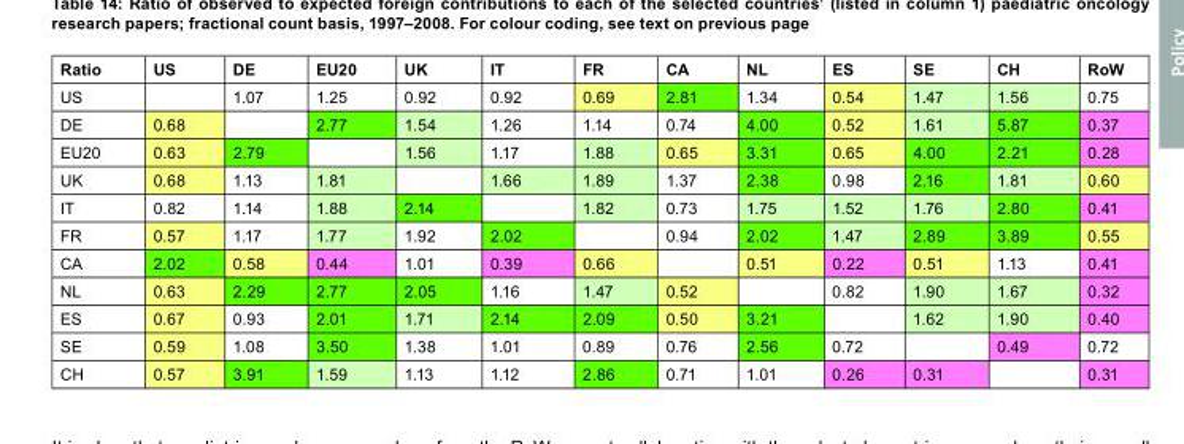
<table><thead><tr><td>Ratio</td><td>US</td><td>DE</td><td>EU20</td><td>UK</td><td>IT</td><td>FR</td><td>CA</td><td>NL</td><td>ES</td><td>SE</td><td>CH</td><td>RoW</td></tr></thead><tbody><tr><td>US</td><td></td><td>1.07</td><td>1.25</td><td>0.92</td><td>0.92</td><td>0.69</td><td>2.81</td><td>1.34</td><td>0.54</td><td>1.47</td><td>1.56</td><td>0.75</td></tr><tr><td>DE</td><td>0.68</td><td></td><td>2.77</td><td>1.54</td><td>1.26</td><td>1.14</td><td>0.74</td><td>4.00</td><td>0.52</td><td>1.61</td><td>5.87</td><td>0.37</td></tr><tr><td>EU20</td><td>0.63</td><td>2.79</td><td></td><td>1.56</td><td>1.17</td><td>1.88</td><td>0.65</td><td>3.31</td><td>0.65</td><td>4.00</td><td>2.21</td><td>0.28</td></tr><tr><td>UK</td><td>0.68</td><td>1.13</td><td>1.81</td><td></td><td>1.66</td><td>1.89</td><td>1.37</td><td>2.38</td><td>0.98</td><td>2.16</td><td>1.81</td><td>0.60</td></tr><tr><td>IT</td><td>0.82</td><td>1.14</td><td>1.88</td><td>2.14</td><td></td><td>1.82</td><td>0.73</td><td>1.75</td><td>1.52</td><td>1.76</td><td>2.80</td><td>0.41</td></tr><tr><td>FR</td><td>0.57</td><td>1.17</td><td>1.77</td><td>1.92</td><td>2.02</td><td></td><td>0.94</td><td>2.02</td><td>1.47</td><td>2.89</td><td>3.89</td><td>0.55</td></tr><tr><td>CA</td><td>2.02</td><td>0.58</td><td>0.44</td><td>1.01</td><td>0.39</td><td>0.66</td><td></td><td>0.51</td><td>0.22</td><td>0.51</td><td>1.13</td><td>0.41</td></tr><tr><td>NL</td><td>0.63</td><td>2.29</td><td>2.77</td><td>2.05</td><td>1.16</td><td>1.47</td><td>0.52</td><td></td><td>0.82</td><td>1.90</td><td>1.67</td><td>0.32</td></tr><tr><td>ES</td><td>0.67</td><td>0.93</td><td>2.01</td><td>1.71</td><td>2.14</td><td>2.09</td><td>0.50</td><td>3.21</td><td></td><td>1.62</td><td>1.90</td><td>0.40</td></tr><tr><td>SE</td><td>0.59</td><td>1.08</td><td>3.50</td><td>1.38</td><td>1.01</td><td>0.89</td><td>0.76</td><td>2.56</td><td>0.72</td><td></td><td>0.49</td><td>0.72</td></tr><tr><td>CH</td><td>0.57</td><td>3.91</td><td>1.59</td><td>1.13</td><td>1.12</td><td>2.86</td><td>0.71</td><td>1.01</td><td>0.26</td><td>0.31</td><td></td><td>0.31</td></tr></tbody></table>